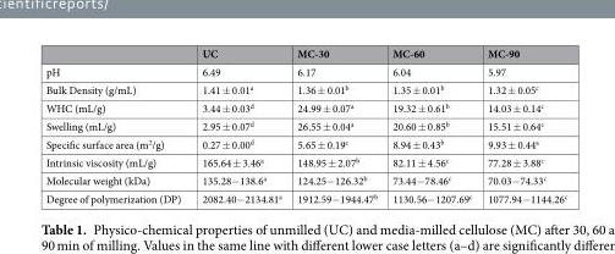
<table><thead><tr><td></td><td>UC</td><td>MC-30</td><td>MC-60</td><td>MC-90</td></tr></thead><tbody><tr><td>pH</td><td>6.49</td><td>6.17</td><td>6.04</td><td>5.97</td></tr><tr><td>Bulk Density (g/mL)</td><td>1.41 ± 0.01<sup>a</sup></td><td>1.36 ± 0.01<sup>b</sup></td><td>1.35 ± 0.01<sup>b</sup></td><td>1.32 ± 0.05<sup>c</sup></td></tr><tr><td>WHC (mL/g)</td><td>3.44 ± 0.03<sup>d</sup></td><td>24.99 ± 0.07<sup>a</sup></td><td>19.32 ± 0.61<sup>b</sup></td><td>14.03 ± 0.14<sup>c</sup></td></tr><tr><td>Swelling (mL/g)</td><td>2.95 ± 0.07<sup>d</sup></td><td>26.55 ± 0.04<sup>a</sup></td><td>20.60 ± 0.85<sup>b</sup></td><td>15.51 ± 0.64<sup>c</sup></td></tr><tr><td>Specific surface area (m<sup>2</sup>/g)</td><td>0.27 ± 0.00<sup>d</sup></td><td>5.65 ± 0.19<sup>c</sup></td><td>8.94 ± 0.43<sup>b</sup></td><td>9.93 ± 0.44<sup>a</sup></td></tr><tr><td>Intrinsic viscosity (mL/g)</td><td>165.64 ± 3.46<sup>a</sup></td><td>148.95 ± 2.07<sup>b</sup></td><td>82.11 ± 4.56<sup>c</sup></td><td>77.28 ± 3.88<sup>c</sup></td></tr><tr><td>Molecular weight (kDa)</td><td>135.28−138.6<sup>a</sup></td><td>124.25−126.32<sup>b</sup></td><td>73.44−78.46<sup>c</sup></td><td>70.03−74.33<sup>c</sup></td></tr><tr><td>Degree of polymerization (DP)</td><td>2082.40−2134.81<sup>a</sup></td><td>1912.59−1944.47<sup>b</sup></td><td>1130.56−1207.69<sup>c</sup></td><td>1077.94−1144.26<sup>c</sup></td></tr></tbody></table>